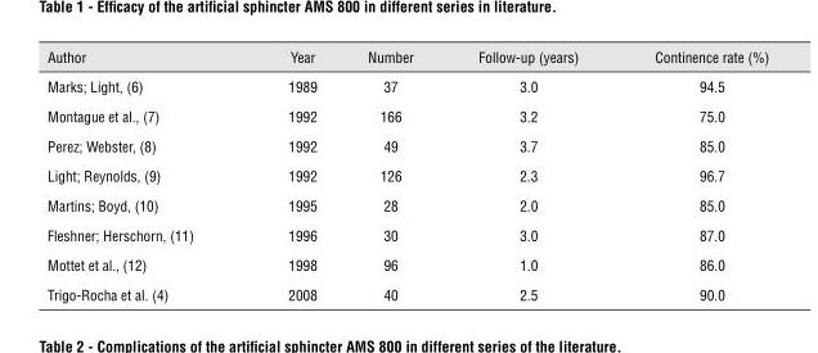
<table><thead><tr><td>Author</td><td>Year</td><td>Number</td><td>Follow-up (years)</td><td>Continence rate (%)</td></tr></thead><tbody><tr><td>Marks; Light, (6)</td><td>1989</td><td>37</td><td>3.0</td><td>94.5</td></tr><tr><td>Montague et al., (7)</td><td>1992</td><td>166</td><td>3.2</td><td>75.0</td></tr><tr><td>Perez; Webster, (8)</td><td>1992</td><td>49</td><td>3.7</td><td>85.0</td></tr><tr><td>Light; Reynolds, (9)</td><td>1992</td><td>126</td><td>2.3</td><td>96.7</td></tr><tr><td>Martins; Boyd, (10)</td><td>1995</td><td>28</td><td>2.0</td><td>85.0</td></tr><tr><td>Fleshner; Herschorn, (11)</td><td>1996</td><td>30</td><td>3.0</td><td>87.0</td></tr><tr><td>Mottet et al., (12)</td><td>1998</td><td>96</td><td>1.0</td><td>86.0</td></tr><tr><td>Trigo-Rocha et al. (4)</td><td>2008</td><td>40</td><td>2.5</td><td>90.0</td></tr></tbody></table>